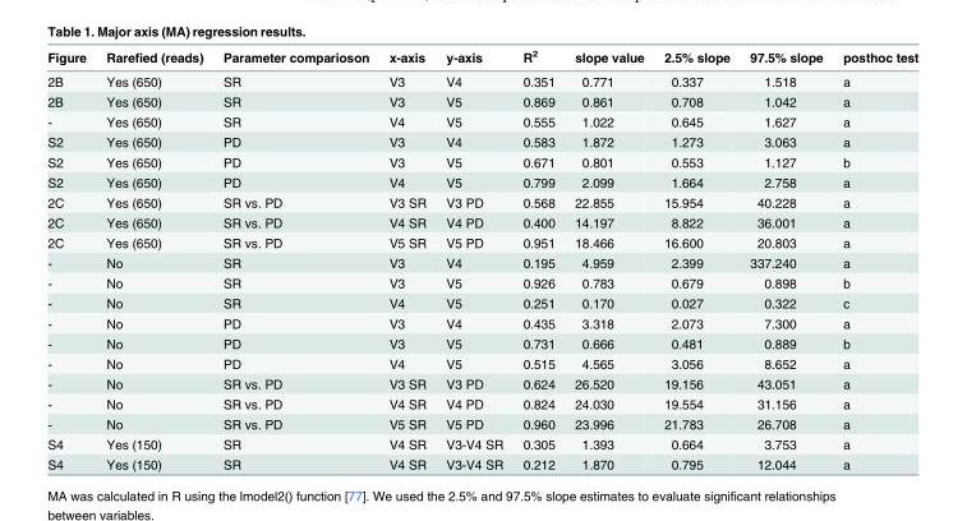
<table><thead><tr><td>Figure</td><td>Rarefied (reads)</td><td>Parameter comparioson</td><td>x-axis</td><td>y-axis</td><td>R<sup>2</sup></td><td>slope value</td><td>2.5% slope</td><td>97.5% slope</td><td>posthoc test</td></tr></thead><tbody><tr><td>2B</td><td>Yes (650)</td><td>SR</td><td>V3</td><td>V4</td><td>0.351</td><td>0.771</td><td>0.337</td><td>1.518</td><td>a</td></tr><tr><td>2B</td><td>Yes (650)</td><td>SR</td><td>V3</td><td>V5</td><td>0.869</td><td>0.861</td><td>0.708</td><td>1.042</td><td>a</td></tr><tr><td>-</td><td>Yes (650)</td><td>SR</td><td>V4</td><td>V5</td><td>0.555</td><td>1.022</td><td>0.645</td><td>1.627</td><td>a</td></tr><tr><td>S2</td><td>Yes (650)</td><td>PD</td><td>V3</td><td>V4</td><td>0.583</td><td>1.872</td><td>1.273</td><td>3.063</td><td>a</td></tr><tr><td>S2</td><td>Yes (650)</td><td>PD</td><td>V3</td><td>V5</td><td>0.671</td><td>0.801</td><td>0.553</td><td>1.127</td><td>b</td></tr><tr><td>S2</td><td>Yes (650)</td><td>PD</td><td>V4</td><td>V5</td><td>0.799</td><td>2.099</td><td>1.664</td><td>2.758</td><td>a</td></tr><tr><td>2C</td><td>Yes (650)</td><td>SR vs. PD</td><td>V3 SR</td><td>V3 PD</td><td>0.568</td><td>22.855</td><td>15.954</td><td>40.228</td><td>a</td></tr><tr><td>2C</td><td>Yes (650)</td><td>SR vs. PD</td><td>V4 SR</td><td>V4 PD</td><td>0.400</td><td>14.197</td><td>8.822</td><td>36.001</td><td>a</td></tr><tr><td>2C</td><td>Yes (650)</td><td>SR vs. PD</td><td>V5 SR</td><td>V5 PD</td><td>0.951</td><td>18.466</td><td>16.600</td><td>20.803</td><td>a</td></tr><tr><td>-</td><td>No</td><td>SR</td><td>V3</td><td>V4</td><td>0.195</td><td>4.959</td><td>2.399</td><td>337.240</td><td>a</td></tr><tr><td>-</td><td>No</td><td>SR</td><td>V3</td><td>V5</td><td>0.926</td><td>0.783</td><td>0.679</td><td>0.898</td><td>b</td></tr><tr><td>-</td><td>No</td><td>SR</td><td>V4</td><td>V5</td><td>0.251</td><td>0.170</td><td>0.027</td><td>0.322</td><td>c</td></tr><tr><td>-</td><td>No</td><td>PD</td><td>V3</td><td>V4</td><td>0.435</td><td>3.318</td><td>2.073</td><td>7.300</td><td>a</td></tr><tr><td>-</td><td>No</td><td>PD</td><td>V3</td><td>V5</td><td>0.731</td><td>0.666</td><td>0.481</td><td>0.889</td><td>b</td></tr><tr><td>-</td><td>No</td><td>PD</td><td>V4</td><td>V5</td><td>0.515</td><td>4.565</td><td>3.056</td><td>8.652</td><td>a</td></tr><tr><td>-</td><td>No</td><td>SR vs. PD</td><td>V3 SR</td><td>V3 PD</td><td>0.624</td><td>26.520</td><td>19.156</td><td>43.051</td><td>a</td></tr><tr><td>-</td><td>No</td><td>SR vs. PD</td><td>V4 SR</td><td>V4 PD</td><td>0.824</td><td>24.030</td><td>19.554</td><td>31.156</td><td>a</td></tr><tr><td>-</td><td>No</td><td>SR vs. PD</td><td>V5 SR</td><td>V5 PD</td><td>0.960</td><td>23.996</td><td>21.783</td><td>26.708</td><td>a</td></tr><tr><td>S4</td><td>Yes (150)</td><td>SR</td><td>V4 SR</td><td>V3-V4 SR</td><td>0.305</td><td>1.393</td><td>0.664</td><td>3.753</td><td>a</td></tr><tr><td>S4</td><td>Yes (150)</td><td>SR</td><td>V4 SR</td><td>V3-V4 SR</td><td>0.212</td><td>1.870</td><td>0.795</td><td>12.044</td><td>a</td></tr></tbody></table>